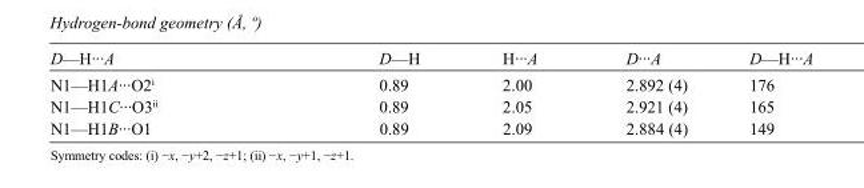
<table><tbody><tr><td>D—H···A</td><td>D—H</td><td>H···A</td><td>D···A</td><td>D—H···A</td></tr><tr><td>N1—H1A···O2<sup>i</sup></td><td>0.89</td><td>2.00</td><td>2.892 (4)</td><td>176</td></tr><tr><td>N1—H1C···O3<sup>ii</sup></td><td>0.89</td><td>2.05</td><td>2.921 (4)</td><td>165</td></tr><tr><td>N1—H1B···O1</td><td>0.89</td><td>2.09</td><td>2.884 (4)</td><td>149</td></tr></tbody></table>